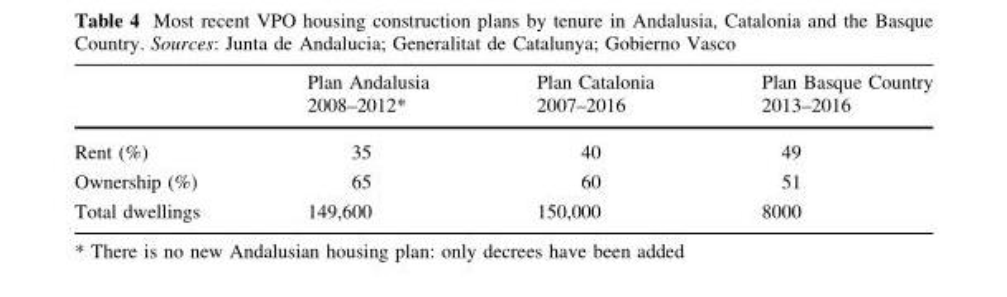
<table><thead><tr><td rowspan="2"></td><td rowspan="2">Plan Andalusia 2008–2012*</td><td rowspan="2">Plan Catalonia 2007–2016</td><td rowspan="2">Plan Basque Country 2013–2016</td></tr><tr></tr></thead><tbody><tr><td>Rent (%)</td><td>35</td><td>40</td><td>49</td></tr><tr><td>Ownership (%)</td><td>65</td><td>60</td><td>51</td></tr><tr><td>Total dwellings</td><td>149,600</td><td>150,000</td><td>8000</td></tr></tbody></table>